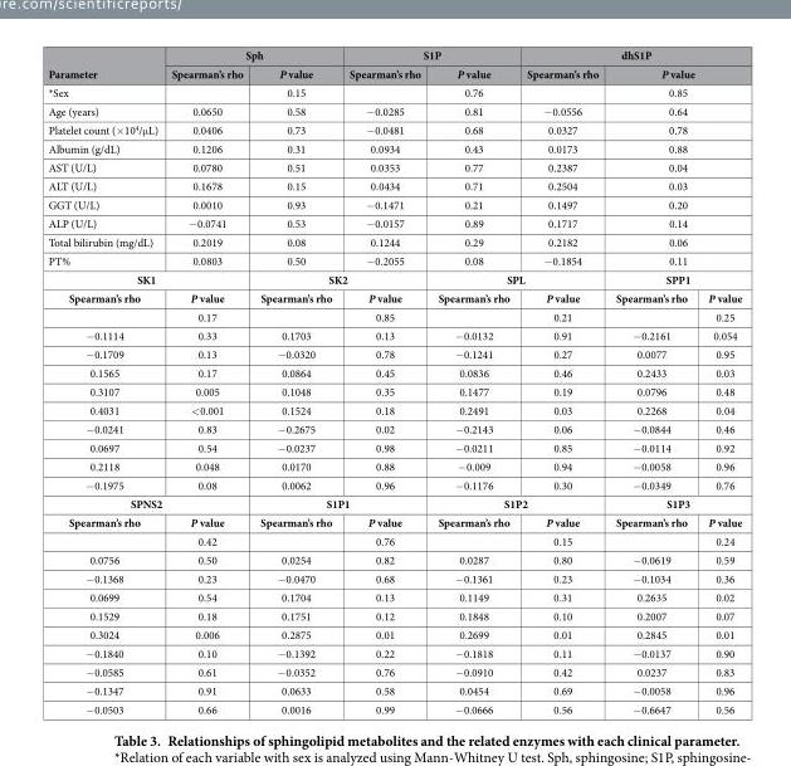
<table><thead><tr><td rowspan="2">Parameter</td><td colspan="2">Sph</td><td colspan="2">S1P</td><td colspan="3">dhS1P</td></tr><tr><td>Spearman’s rho</td><td>P value</td><td>Spearman’s rho</td><td>P value</td><td>Spearman’s rho</td><td colspan="2">P value</td></tr></thead><tbody><tr><td>*Sex</td><td></td><td>0.15</td><td></td><td>0.76</td><td></td><td colspan="2">0.85</td></tr><tr><td>Age (years)</td><td>0.0650</td><td>0.58</td><td>−0.0285</td><td>0.81</td><td>−0.0556</td><td colspan="2">0.64</td></tr><tr><td>Platelet count (×10<sup>4</sup>/μL)</td><td>0.0406</td><td>0.73</td><td>−0.0481</td><td>0.68</td><td>0.0327</td><td colspan="2">0.78</td></tr><tr><td>Albumin (g/dL)</td><td>0.1206</td><td>0.31</td><td>0.0934</td><td>0.43</td><td>0.0173</td><td colspan="2">0.88</td></tr><tr><td>AST (U/L)</td><td>0.0780</td><td>0.51</td><td>0.0353</td><td>0.77</td><td>0.2387</td><td colspan="2">0.04</td></tr><tr><td>ALT (U/L)</td><td>0.1678</td><td>0.15</td><td>0.0434</td><td>0.71</td><td>0.2504</td><td colspan="2">0.03</td></tr><tr><td>GGT (U/L)</td><td>0.0010</td><td>0.93</td><td>−0.1471</td><td>0.21</td><td>0.1497</td><td colspan="2">0.20</td></tr><tr><td>ALP (U/L)</td><td>−0.0741</td><td>0.53</td><td>−0.0157</td><td>0.89</td><td>0.1717</td><td colspan="2">0.14</td></tr><tr><td>Total bilirubin (mg/dL)</td><td>0.2019</td><td>0.08</td><td>0.1244</td><td>0.29</td><td>0.2182</td><td colspan="2">0.06</td></tr><tr><td>PT%</td><td>0.0803</td><td>0.50</td><td>−0.2055</td><td>0.08</td><td>−0.1854</td><td colspan="2">0.11</td></tr><tr><td colspan="2">SK1</td><td colspan="2">SK2</td><td colspan="2">SPL</td><td colspan="2">SPP1</td></tr><tr><td rowspan="2">Spearman’s rho</td><td>P value</td><td>Spearman’s rho</td><td>P value</td><td>Spearman’s rho</td><td>P value</td><td>Spearman’s rho</td><td>P value</td></tr><tr><td>0.17</td><td></td><td>0.85</td><td></td><td>0.21</td><td></td><td>0.25</td></tr><tr><td>−0.1114</td><td>0.33</td><td>0.1703</td><td>0.13</td><td>−0.0132</td><td>0.91</td><td>−0.2161</td><td>0.054</td></tr><tr><td>−0.1709</td><td>0.13</td><td>−0.0320</td><td>0.78</td><td>−0.1241</td><td>0.27</td><td>0.0077</td><td>0.95</td></tr><tr><td>0.1565</td><td>0.17</td><td>0.0864</td><td>0.45</td><td>0.0836</td><td>0.46</td><td>0.2433</td><td>0.03</td></tr><tr><td>0.3107</td><td>0.005</td><td>0.1048</td><td>0.35</td><td>0.1477</td><td>0.19</td><td>0.0796</td><td>0.48</td></tr><tr><td>0.4031</td><td>&lt;0.001</td><td>0.1524</td><td>0.18</td><td>0.2491</td><td>0.03</td><td>0.2268</td><td>0.04</td></tr><tr><td>−0.0241</td><td>0.83</td><td>−0.2675</td><td>0.02</td><td>−0.2143</td><td>0.06</td><td>−0.0844</td><td>0.46</td></tr><tr><td>0.0697</td><td>0.54</td><td>−0.0237</td><td>0.98</td><td>−0.0211</td><td>0.85</td><td>−0.0114</td><td>0.92</td></tr><tr><td>0.2118</td><td>0.048</td><td>0.0170</td><td>0.88</td><td>−0.009</td><td>0.94</td><td>−0.0058</td><td>0.96</td></tr><tr><td>−0.1975</td><td>0.08</td><td>0.0062</td><td>0.96</td><td>−0.1176</td><td>0.30</td><td>−0.0349</td><td>0.76</td></tr><tr><td colspan="2">SPNS2</td><td colspan="2">S1P1</td><td colspan="2">S1P2</td><td colspan="2">S1P3</td></tr><tr><td rowspan="2">Spearman’s rho</td><td>P value</td><td>Spearman’s rho</td><td>P value</td><td>Spearman’s rho</td><td>P value</td><td>Spearman’s rho</td><td>P value</td></tr><tr><td>0.42</td><td></td><td>0.76</td><td></td><td>0.15</td><td></td><td>0.24</td></tr><tr><td>0.0756</td><td>0.50</td><td>0.0254</td><td>0.82</td><td>0.0287</td><td>0.80</td><td>−0.0619</td><td>0.59</td></tr><tr><td>−0.1368</td><td>0.23</td><td>−0.0470</td><td>0.68</td><td>−0.1361</td><td>0.23</td><td>−0.1034</td><td>0.36</td></tr><tr><td>0.0699</td><td>0.54</td><td>0.1704</td><td>0.13</td><td>0.1149</td><td>0.31</td><td>0.2635</td><td>0.02</td></tr><tr><td>0.1529</td><td>0.18</td><td>0.1751</td><td>0.12</td><td>0.1848</td><td>0.10</td><td>0.2007</td><td>0.07</td></tr><tr><td>0.3024</td><td>0.006</td><td>0.2875</td><td>0.01</td><td>0.2699</td><td>0.01</td><td>0.2845</td><td>0.01</td></tr><tr><td>−0.1840</td><td>0.10</td><td>−0.1392</td><td>0.22</td><td>−0.1818</td><td>0.11</td><td>−0.0137</td><td>0.90</td></tr><tr><td>−0.0585</td><td>0.61</td><td>−0.0352</td><td>0.76</td><td>−0.0910</td><td>0.42</td><td>0.0237</td><td>0.83</td></tr><tr><td>−0.1347</td><td>0.91</td><td>0.0633</td><td>0.58</td><td>0.0454</td><td>0.69</td><td>−0.0058</td><td>0.96</td></tr><tr><td>−0.0503</td><td>0.66</td><td>0.0016</td><td>0.99</td><td>−0.0666</td><td>0.56</td><td>−0.6647</td><td>0.56</td></tr></tbody></table>